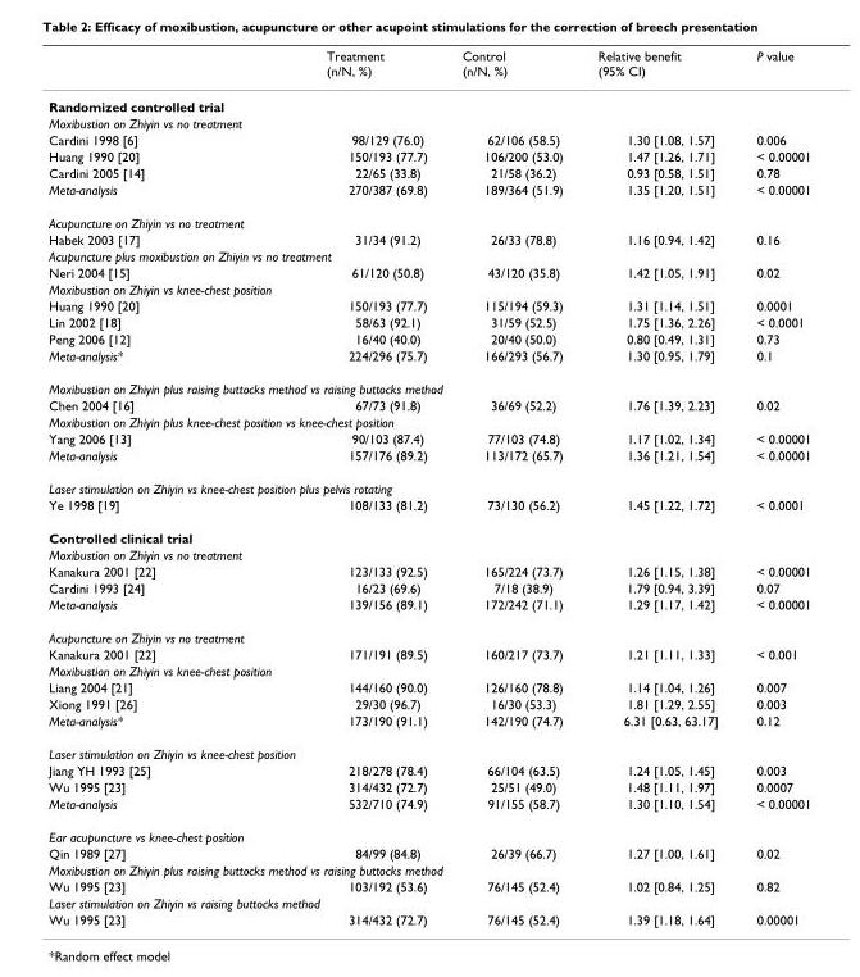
<table><thead><tr><td></td><td>Treatment (n/N, %)</td><td>Control (n/N, %)</td><td>Relative benefit (95% CI)</td><td>P value</td></tr></thead><tbody><tr><td colspan="5">Randomized controlled trial</td></tr><tr><td colspan="5">Moxibustion on Zhiyin vs no treatment</td></tr><tr><td>Cardini 1998 [6]</td><td>98/129 (76.0)</td><td>62/106 (58.5)</td><td>1.30 [1.08, 1.57]</td><td>0.006</td></tr><tr><td>Huang 1990 [20]</td><td>150/193 (77.7)</td><td>106/200 (53.0)</td><td>1.47 [1.26, 1.71]</td><td>&lt; 0.00001</td></tr><tr><td>Cardini 2005 [14]</td><td>22/65 (33.8)</td><td>21/58 (36.2)</td><td>0.93 [0.58, 1.51]</td><td>0.78</td></tr><tr><td>Meta-analysis</td><td>270/387 (69.8)</td><td>189/364 (51.9)</td><td>1.35 [1.20, 1.51]</td><td>&lt; 0.00001</td></tr><tr><td colspan="5">Acupuncture on Zhiyin vs no treatment</td></tr><tr><td>Habek 2003 [17]</td><td>31/34 (91.2)</td><td>26/33 (78.8)</td><td>1.16 [0.94, 1.42]</td><td>0.16</td></tr><tr><td colspan="5">Acupuncture plus moxibustion on Zhiyin vs no treatment</td></tr><tr><td>Neri 2004 [15]</td><td>61/120 (50.8)</td><td>43/120 (35.8)</td><td>1.42 [1.05, 1.91]</td><td>0.02</td></tr><tr><td colspan="5">Moxibustion on Zhiyin vs knee-chest position</td></tr><tr><td>Huang 1990 [20]</td><td>150/193 (77.7)</td><td>115/194 (59.3)</td><td>1.31 [1.14, 1.51]</td><td>0.0001</td></tr><tr><td>Lin 2002 [18]</td><td>58/63 (92.1)</td><td>31/59 (52.5)</td><td>1.75 [1.36, 2.26]</td><td>&lt; 0.0001</td></tr><tr><td>Peng 2006 [12]</td><td>16/40 (40.0)</td><td>20/40 (50.0)</td><td>0.80 [0.49, 1.31]</td><td>0.73</td></tr><tr><td>Meta-analysis*</td><td>224/296 (75.7)</td><td>166/293 (56.7)</td><td>1.30 [0.95, 1.79]</td><td>0.1</td></tr><tr><td colspan="5">Moxibustion on Zhiyin plus raising buttocks method vs raising buttocks method</td></tr><tr><td>Chen 2004 [16]</td><td>67/73 (91.8)</td><td>36/69 (52.2)</td><td>1.76 [1.39, 2.23]</td><td>0.02</td></tr><tr><td colspan="5">Moxibustion on Zhiyin plus knee-chest position vs knee-chest position</td></tr><tr><td>Yang 2006 [13]</td><td>90/103 (87.4)</td><td>77/103 (74.8)</td><td>1.17 [1.02, 1.34]</td><td>&lt; 0.00001</td></tr><tr><td>Meta-analysis</td><td>157/176 (89.2)</td><td>113/172 (65.7)</td><td>1.36 [1.21, 1.54]</td><td>&lt; 0.00001</td></tr><tr><td colspan="5">Laser stimulation on Zhiyin vs knee-chest position plus pelvis rotating</td></tr><tr><td>Ye 1998 [19]</td><td>108/133 (81.2)</td><td>73/130 (56.2)</td><td>1.45 [1.22, 1.72]</td><td>&lt; 0.0001</td></tr><tr><td colspan="5">Controlled clinical trial</td></tr><tr><td colspan="5">Moxibustion on Zhiyin vs no treatment</td></tr><tr><td>Kanakura 2001 [22]</td><td>123/133 (92.5)</td><td>165/224 (73.7)</td><td>1.26 [1.15, 1.38]</td><td>&lt; 0.00001</td></tr><tr><td>Cardini 1993 [24]</td><td>16/23 (69.6)</td><td>7/18 (38.9)</td><td>1.79 [0.94, 3.39]</td><td>0.07</td></tr><tr><td>Meta-analysis</td><td>139/156 (89.1)</td><td>172/242 (71.1)</td><td>1.29 [1.17, 1.42]</td><td>&lt; 0.00001</td></tr><tr><td colspan="5">Acupuncture on Zhiyin vs no treatment</td></tr><tr><td>Kanakura 2001 [22]</td><td>171/191 (89.5)</td><td>160/217 (73.7)</td><td>1.21 [1.11, 1.33]</td><td>&lt; 0.001</td></tr><tr><td colspan="5">Moxibustion on Zhiyin vs knee-chest position</td></tr><tr><td>Liang 2004 [21]</td><td>144/160 (90.0)</td><td>126/160 (78.8)</td><td>1.14 [1.04, 1.26]</td><td>0.007</td></tr><tr><td>Xiong 1991 [26]</td><td>29/30 (96.7)</td><td>16/30 (53.3)</td><td>1.81 [1.29, 2.55]</td><td>0.003</td></tr><tr><td>Meta-analysis*</td><td>173/190 (91.1)</td><td>142/190 (74.7)</td><td>6.31 [0.63, 63.17]</td><td>0.12</td></tr><tr><td colspan="5">Laser stimulation on Zhiyin vs knee-chest position</td></tr><tr><td>Jiang YH 1993 [25]</td><td>218/278 (78.4)</td><td>66/104 (63.5)</td><td>1.24 [1.05, 1.45]</td><td>0.003</td></tr><tr><td>Wu 1995 [23]</td><td>314/432 (72.7)</td><td>25/51 (49.0)</td><td>1.48 [1.11, 1.97]</td><td>0.0007</td></tr><tr><td>Meta-analysis</td><td>532/710 (74.9)</td><td>91/155 (58.7)</td><td>1.30 [1.10, 1.54]</td><td>&lt; 0.00001</td></tr><tr><td colspan="5">Ear acupuncture vs knee-chest position</td></tr><tr><td>Qin 1989 [27]</td><td>84/99 (84.8)</td><td>26/39 (66.7)</td><td>1.27 [1.00, 1.61]</td><td>0.02</td></tr><tr><td colspan="5">Moxibustion on Zhiyin plus raising buttocks method vs raising buttocks method</td></tr><tr><td>Wu 1995 [23]</td><td>103/192 (53.6)</td><td>76/145 (52.4)</td><td>1.02 [0.84, 1.25]</td><td>0.82</td></tr><tr><td colspan="5">Laser stimulation on Zhiyin vs raising buttocks method</td></tr><tr><td>Wu 1995 [23]</td><td>314/432 (72.7)</td><td>76/145 (52.4)</td><td>1.39 [1.18, 1.64]</td><td>0.00001</td></tr></tbody></table>